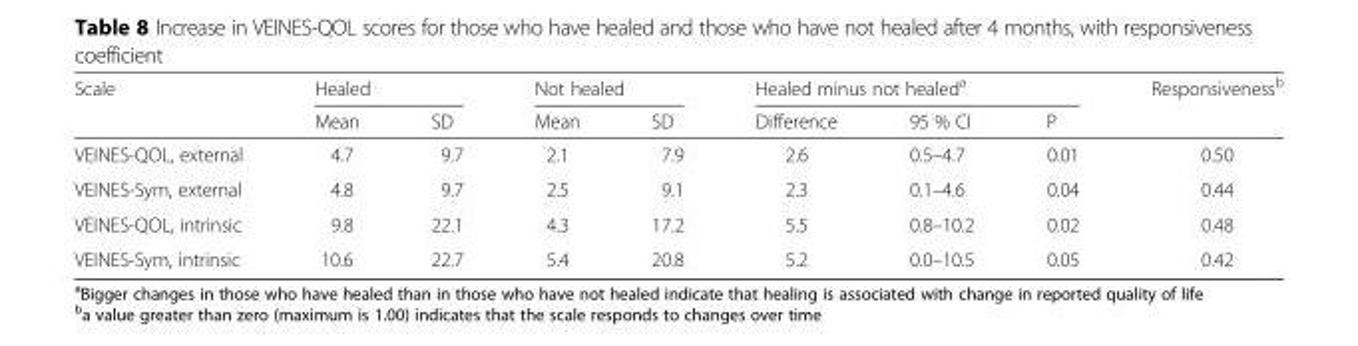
<table><thead><tr><td rowspan="2">Scale</td><td colspan="2">Healed</td><td colspan="2">Not healed</td><td colspan="3">Healed minus not healed<sup>a</sup></td><td rowspan="2">Responsiveness<sup>b</sup></td></tr><tr><td>Mean</td><td>SD</td><td>Mean</td><td>SD</td><td>Difference</td><td>95 % CI</td><td>P</td></tr></thead><tbody><tr><td>VEINES-QOL, external</td><td>4.7</td><td>9.7</td><td>2.1</td><td>7.9</td><td>2.6</td><td>0.5–4.7</td><td>0.01</td><td>0.50</td></tr><tr><td>VEINES-Sym, external</td><td>4.8</td><td>9.7</td><td>2.5</td><td>9.1</td><td>2.3</td><td>0.1–4.6</td><td>0.04</td><td>0.44</td></tr><tr><td>VEINES-QOL, intrinsic</td><td>9.8</td><td>22.1</td><td>4.3</td><td>17.2</td><td>5.5</td><td>0.8–10.2</td><td>0.02</td><td>0.48</td></tr><tr><td>VEINES-Sym, intrinsic</td><td>10.6</td><td>22.7</td><td>5.4</td><td>20.8</td><td>5.2</td><td>0.0–10.5</td><td>0.05</td><td>0.42</td></tr></tbody></table>